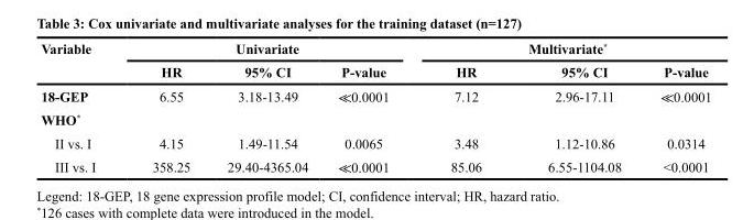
<table><thead><tr><td rowspan="2">Variable</td><td colspan="3">Univariate</td><td colspan="3">Multivariate*</td></tr><tr><td>HR</td><td>95% CI</td><td>P-value</td><td>HR</td><td>95% CI</td><td>P-value</td></tr></thead><tbody><tr><td>18-GEP</td><td>6.55</td><td>3.18-13.49</td><td>≪0.0001</td><td>7.12</td><td>2.96-17.11</td><td>≪0.0001</td></tr><tr><td colspan="7">WHO*</td></tr><tr><td>II vs. I</td><td>4.15</td><td>1.49-11.54</td><td>0.0065</td><td>3.48</td><td>1.12-10.86</td><td>0.0314</td></tr><tr><td>III vs. I</td><td>358.25</td><td>29.40-4365.04</td><td>≪0.0001</td><td>85.06</td><td>6.55-1104.08</td><td>&lt;0.0001</td></tr></tbody></table>